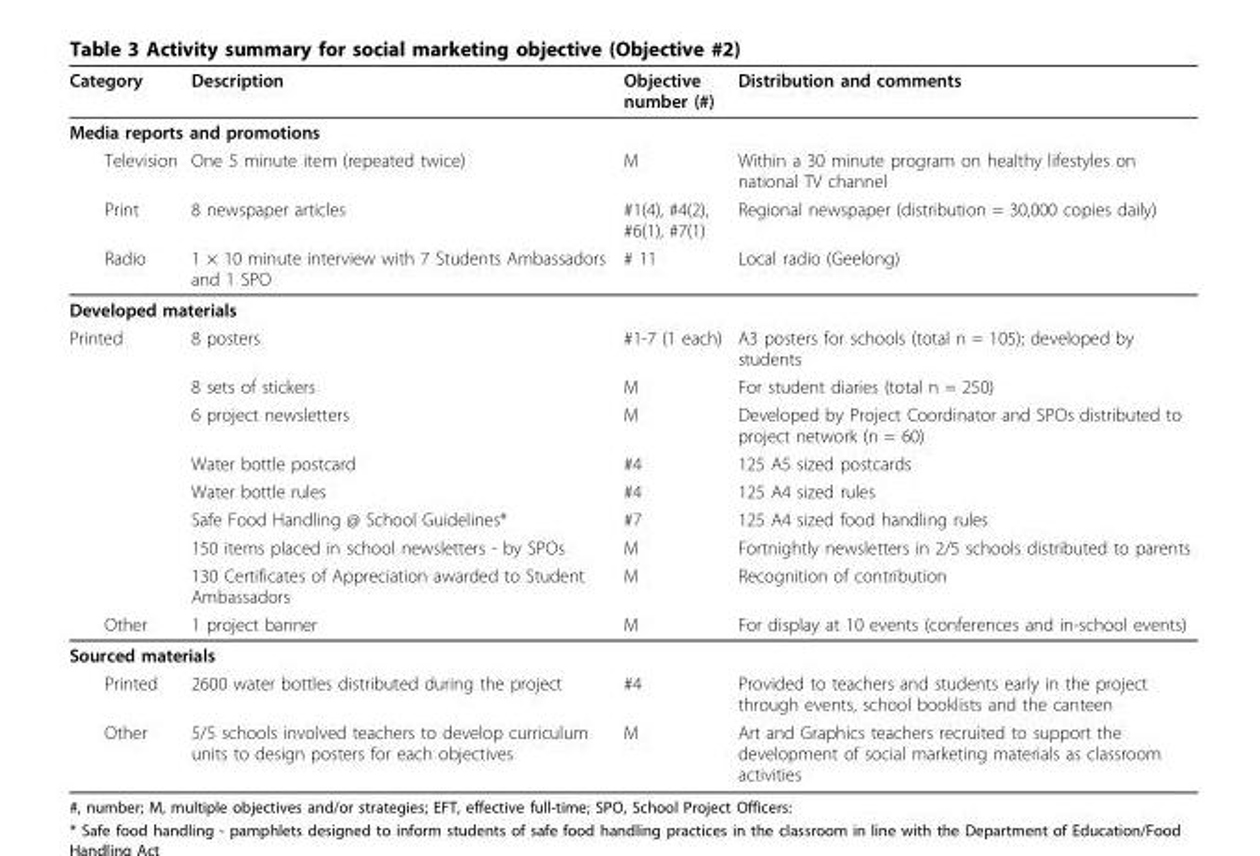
<table><thead><tr><td>Category</td><td>Description</td><td>Objective number (#)</td><td>Distribution and comments</td></tr></thead><tbody><tr><td colspan="4">Media reports and promotions</td></tr><tr><td>Television</td><td>One 5 minute item (repeated twice)</td><td>M</td><td>Within a 30 minute program on healthy lifestyles on national TV channel</td></tr><tr><td>Print</td><td>8 newspaper articles</td><td>#1(4), #4(2), #6(1), #7(1)</td><td>Regional newspaper (distribution = 30,000 copies daily)</td></tr><tr><td>Radio</td><td>1 × 10 minute interview with 7 Students Ambassadors and 1 SPO</td><td># 11</td><td>Local radio (Geelong)</td></tr><tr><td colspan="4">Developed materials</td></tr><tr><td rowspan="8">Printed</td><td>8 posters</td><td>#1-7 (1 each)</td><td>A3 posters for schools (total n = 105); developed by students</td></tr><tr><td>8 sets of stickers</td><td>M</td><td>For student diaries (total n = 250)</td></tr><tr><td>6 project newsletters</td><td>M</td><td>Developed by Project Coordinator and SPOs distributed to project network (n = 60)</td></tr><tr><td>Water bottle postcard</td><td>#4</td><td>125 A5 sized postcards</td></tr><tr><td>Water bottle rules</td><td>#4</td><td>125 A4 sized rules</td></tr><tr><td>Safe Food Handling @ School Guidelines*</td><td>#7</td><td>125 A4 sized food handling rules</td></tr><tr><td>150 items placed in school newsletters - by SPOs</td><td>M</td><td>Fortnightly newsletters in 2/5 schools distributed to parents</td></tr><tr><td>130 Certificates of Appreciation awarded to Student Ambassadors</td><td>M</td><td>Recognition of contribution</td></tr><tr><td>Other</td><td>1 project banner</td><td>M</td><td>For display at 10 events (conferences and in-school events)</td></tr><tr><td colspan="4">Sourced materials</td></tr><tr><td>Printed</td><td>2600 water bottles distributed during the project</td><td>#4</td><td>Provided to teachers and students early in the project through events, school booklists and the canteen</td></tr><tr><td>Other</td><td>5/5 schools involved teachers to develop curriculum units to design posters for each objectives</td><td>M</td><td>Art and Graphics teachers recruited to support the development of social marketing materials as classroom activities</td></tr></tbody></table>